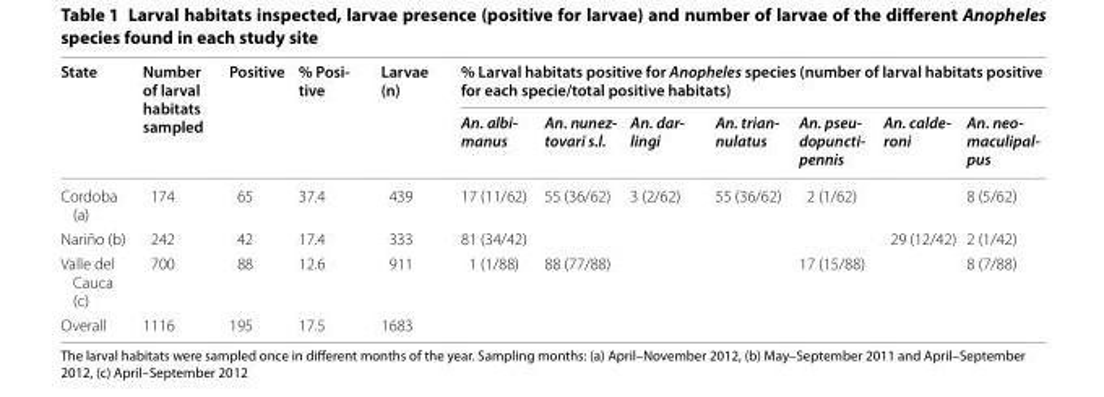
<table><thead><tr><td rowspan="2">State</td><td rowspan="2">Number of larval habitats sampled</td><td rowspan="2">Positive</td><td rowspan="2">% Posi- tive</td><td rowspan="2">Larvae (n)</td><td colspan="7">% Larval habitats positive for Anopheles species (number of larval habitats positive for each specie/total positive habitats)</td></tr><tr><td>An. albi- manus</td><td>An. nunez- tovari s.l.</td><td>An. dar- lingi</td><td>An. trian- nulatus</td><td>An. pseu- dopuncti- pennis</td><td>An. calde- roni</td><td>An. neo- maculipal- pus</td></tr></thead><tbody><tr><td>Cordoba (a)</td><td>174</td><td>65</td><td>37.4</td><td>439</td><td>17 (11/62)</td><td>55 (36/62)</td><td>3 (2/62)</td><td>55 (36/62)</td><td>2 (1/62)</td><td></td><td>8 (5/62)</td></tr><tr><td>Nariño (b)</td><td>242</td><td>42</td><td>17.4</td><td>333</td><td>81 (34/42)</td><td></td><td></td><td></td><td></td><td>29 (12/42)</td><td>2 (1/42)</td></tr><tr><td>Valle del Cauca (c)</td><td>700</td><td>88</td><td>12.6</td><td>911</td><td>1 (1/88)</td><td>88 (77/88)</td><td></td><td></td><td>17 (15/88)</td><td></td><td>8 (7/88)</td></tr><tr><td>Overall</td><td>1116</td><td>195</td><td>17.5</td><td>1683</td><td></td><td></td><td></td><td></td><td></td><td></td><td></td></tr></tbody></table>